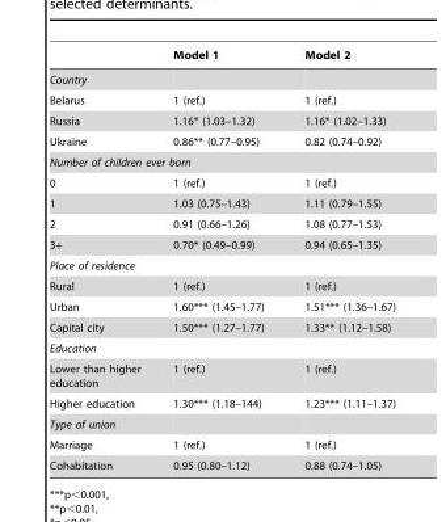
<table><thead><tr><td></td><td>Model 1</td><td>Model 2</td></tr></thead><tbody><tr><td colspan="3">Country</td></tr><tr><td>Belarus</td><td>1 (ref.)</td><td>1 (ref.)</td></tr><tr><td>Russia</td><td>1.16* (1.03–1.32)</td><td>1.16* (1.02–1.33)</td></tr><tr><td>Ukraine</td><td>0.86** (0.77–0.95)</td><td>0.82 (0.74–0.92)</td></tr><tr><td colspan="3">Number of children ever born</td></tr><tr><td>0</td><td>1 (ref.)</td><td>1 (ref.)</td></tr><tr><td>1</td><td>1.03 (0.75–1.43)</td><td>1.11 (0.79–1.55)</td></tr><tr><td>2</td><td>0.91 (0.66–1.26)</td><td>1.08 (0.77–1.53)</td></tr><tr><td>3+</td><td>0.70* (0.49–0.99)</td><td>0.94 (0.65–1.35)</td></tr><tr><td colspan="3">Place of residence</td></tr><tr><td>Rural</td><td>1 (ref.)</td><td>1 (ref.)</td></tr><tr><td>Urban</td><td>1.60*** (1.45–1.77)</td><td>1.51*** (1.36–1.67)</td></tr><tr><td>Capital city</td><td>1.50*** (1.27–1.77)</td><td>1.33** (1.12–1.58)</td></tr><tr><td colspan="3">Education</td></tr><tr><td>Lower than higher education</td><td>1 (ref.)</td><td>1 (ref.)</td></tr><tr><td>Higher education</td><td>1.30*** (1.18–144)</td><td>1.23*** (1.11–1.37)</td></tr><tr><td colspan="3">Type of union</td></tr><tr><td>Marriage</td><td>1 (ref.)</td><td>1 (ref.)</td></tr><tr><td>Cohabitation</td><td>0.95 (0.80–1.12)</td><td>0.88 (0.74–1.05)</td></tr></tbody></table>